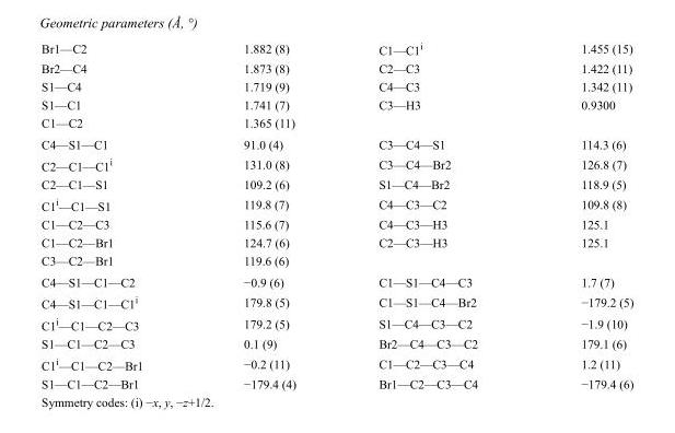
<table><tbody><tr><td>Br1—C2</td><td>1.882 (8)</td><td>C1—C1<sup>i</sup></td><td>1.455 (15)</td></tr><tr><td>Br2—C4</td><td>1.873 (8)</td><td>C2—C3</td><td>1.422 (11)</td></tr><tr><td>S1—C4</td><td>1.719 (9)</td><td>C4—C3</td><td>1.342 (11)</td></tr><tr><td>S1—C1</td><td>1.741 (7)</td><td>C3—H3</td><td>0.9300</td></tr><tr><td>C1—C2</td><td>1.365 (11)</td><td></td><td></td></tr><tr><td>C4—S1—C1</td><td>91.0 (4)</td><td>C3—C4—S1</td><td>114.3 (6)</td></tr><tr><td>C2—C1—C1<sup>i</sup></td><td>131.0 (8)</td><td>C3—C4—Br2</td><td>126.8 (7)</td></tr><tr><td>C2—C1—S1</td><td>109.2 (6)</td><td>S1—C4—Br2</td><td>118.9 (5)</td></tr><tr><td>C1<sup>i</sup>—C1—S1</td><td>119.8 (7)</td><td>C4—C3—C2</td><td>109.8 (8)</td></tr><tr><td>C1—C2—C3</td><td>115.6 (7)</td><td>C4—C3—H3</td><td>125.1</td></tr><tr><td>C1—C2—Br1</td><td>124.7 (6)</td><td>C2—C3—H3</td><td>125.1</td></tr><tr><td>C3—C2—Br1</td><td>119.6 (6)</td><td></td><td></td></tr><tr><td>C4—S1—C1—C2</td><td>−0.9 (6)</td><td>C1—S1—C4—C3</td><td>1.7 (7)</td></tr><tr><td>C4—S1—C1—C1<sup>i</sup></td><td>179.8 (5)</td><td>C1—S1—C4—Br2</td><td>−179.2 (5)</td></tr><tr><td>C1<sup>i</sup>—C1—C2—C3</td><td>179.2 (5)</td><td>S1—C4—C3—C2</td><td>−1.9 (10)</td></tr><tr><td>S1—C1—C2—C3</td><td>0.1 (9)</td><td>Br2—C4—C3—C2</td><td>179.1 (6)</td></tr><tr><td>C1<sup>i</sup>—C1—C2—Br1</td><td>−0.2 (11)</td><td>C1—C2—C3—C4</td><td>1.2 (11)</td></tr><tr><td>S1—C1—C2—Br1</td><td>−179.4 (4)</td><td>Br1—C2—C3—C4</td><td>−179.4 (6)</td></tr></tbody></table>